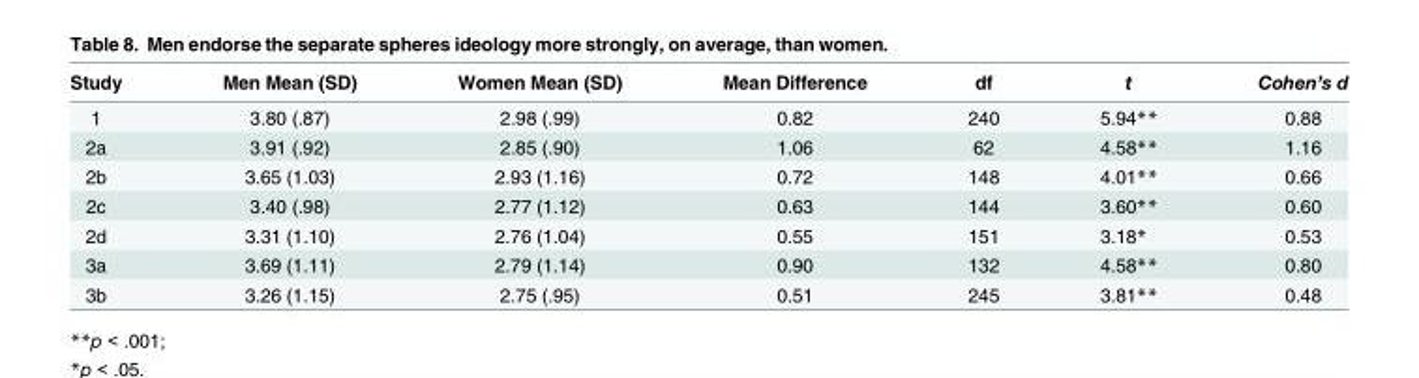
<table><thead><tr><td>Study</td><td>Men Mean (SD)</td><td>Women Mean (SD)</td><td>Mean Difference</td><td>df</td><td>t</td><td>Cohen’s d</td></tr></thead><tbody><tr><td>1</td><td>3.80 (.87)</td><td>2.98 (.99)</td><td>0.82</td><td>240</td><td>5.94**</td><td>0.88</td></tr><tr><td>2a</td><td>3.91 (.92)</td><td>2.85 (.90)</td><td>1.06</td><td>62</td><td>4.58**</td><td>1.16</td></tr><tr><td>2b</td><td>3.65 (1.03)</td><td>2.93 (1.16)</td><td>0.72</td><td>148</td><td>4.01**</td><td>0.66</td></tr><tr><td>2c</td><td>3.40 (.98)</td><td>2.77 (1.12)</td><td>0.63</td><td>144</td><td>3.60**</td><td>0.60</td></tr><tr><td>2d</td><td>3.31 (1.10)</td><td>2.76 (1.04)</td><td>0.55</td><td>151</td><td>3.18*</td><td>0.53</td></tr><tr><td>3a</td><td>3.69 (1.11)</td><td>2.79 (1.14)</td><td>0.90</td><td>132</td><td>4.58**</td><td>0.80</td></tr><tr><td>3b</td><td>3.26 (1.15)</td><td>2.75 (.95)</td><td>0.51</td><td>245</td><td>3.81**</td><td>0.48</td></tr></tbody></table>